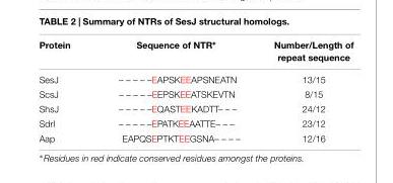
<table><thead><tr><td>Protein</td><td>Sequence of NTR∗</td><td>Number/Length of repeat sequence</td></tr></thead><tbody><tr><td>SesJ</td><td>– – – – –EAPSKEEAPSNEATN</td><td>13/15</td></tr><tr><td>ScsJ</td><td>– – – – –EEPSKEEATSKEVTN</td><td>8/15</td></tr><tr><td>ShsJ</td><td>– – – – –EQASTEEKADTT– – –</td><td>24/12</td></tr><tr><td>SdrI</td><td>– – – – –EPATKEEAATTE– – –</td><td>23/12</td></tr><tr><td>Aap</td><td>EAPQSEPTKTEEGSNA– – – –</td><td>12/16</td></tr></tbody></table>